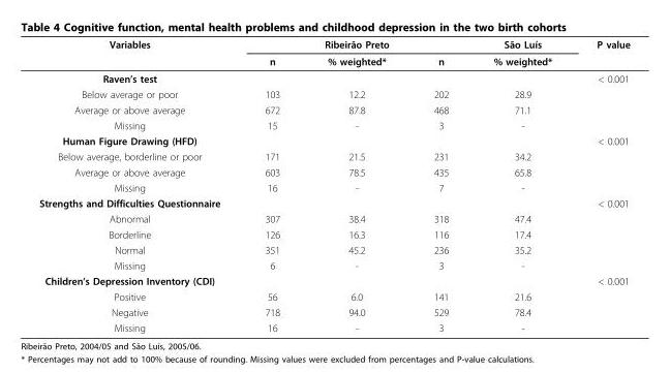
<table><thead><tr><td rowspan="2">Variables</td><td rowspan="2">n</td><td rowspan="2">Ribeirão Preto % weighted*</td><td rowspan="2">n</td><td rowspan="2">São Luís % weighted*</td><td rowspan="2">P value</td></tr><tr></tr></thead><tbody><tr><td>Raven’s test</td><td></td><td></td><td></td><td></td><td>&lt; 0.001</td></tr><tr><td>Below average or poor</td><td>103</td><td>12.2</td><td>202</td><td>28.9</td><td></td></tr><tr><td>Average or above average</td><td>672</td><td>87.8</td><td>468</td><td>71.1</td><td></td></tr><tr><td>Missing</td><td>15</td><td>-</td><td>3</td><td>-</td><td></td></tr><tr><td>Human Figure Drawing (HFD)</td><td></td><td></td><td></td><td></td><td>&lt; 0.001</td></tr><tr><td>Below average, borderline or poor</td><td>171</td><td>21.5</td><td>231</td><td>34.2</td><td></td></tr><tr><td>Average or above average</td><td>603</td><td>78.5</td><td>435</td><td>65.8</td><td></td></tr><tr><td>Missing</td><td>16</td><td>-</td><td>7</td><td>-</td><td></td></tr><tr><td>Strengths and Difficulties Questionnaire</td><td></td><td></td><td></td><td></td><td>&lt; 0.001</td></tr><tr><td>Abnormal</td><td>307</td><td>38.4</td><td>318</td><td>47.4</td><td></td></tr><tr><td>Borderline</td><td>126</td><td>16.3</td><td>116</td><td>17.4</td><td></td></tr><tr><td>Normal</td><td>351</td><td>45.2</td><td>236</td><td>35.2</td><td></td></tr><tr><td>Missing</td><td>6</td><td>-</td><td>3</td><td>-</td><td></td></tr><tr><td>Children’s Depression Inventory (CDI)</td><td></td><td></td><td></td><td></td><td>&lt; 0.001</td></tr><tr><td>Positive</td><td>56</td><td>6.0</td><td>141</td><td>21.6</td><td></td></tr><tr><td>Negative</td><td>718</td><td>94.0</td><td>529</td><td>78.4</td><td></td></tr><tr><td>Missing</td><td>16</td><td>-</td><td>3</td><td>-</td><td></td></tr></tbody></table>